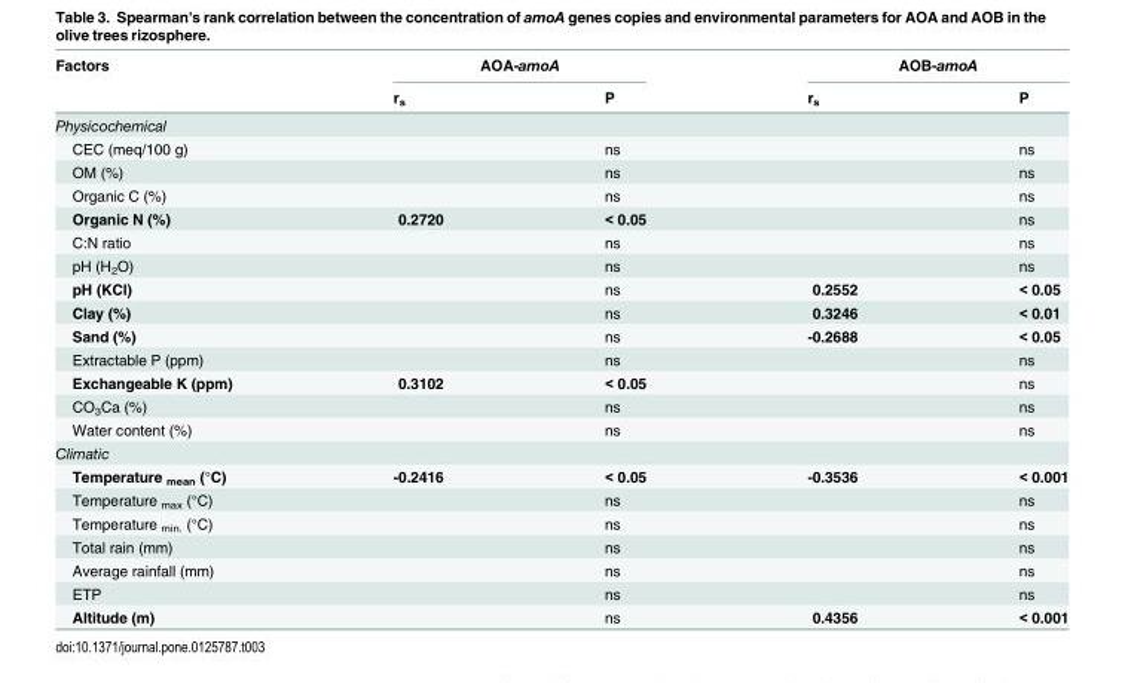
<table><thead><tr><td rowspan="2">Factors</td><td colspan="2">AOA-amoA</td><td colspan="2">AOB-amoA</td></tr><tr><td>r<sub>s</sub></td><td>P</td><td>r<sub>s</sub></td><td>P</td></tr></thead><tbody><tr><td colspan="5">Physicochemical</td></tr><tr><td>CEC (meq/100 g)</td><td></td><td>ns</td><td></td><td>ns</td></tr><tr><td>OM (%)</td><td></td><td>ns</td><td></td><td>ns</td></tr><tr><td>Organic C (%)</td><td></td><td>ns</td><td></td><td>ns</td></tr><tr><td>Organic N (%)</td><td>0.2720</td><td>&lt; 0.05</td><td></td><td>ns</td></tr><tr><td>C:N ratio</td><td></td><td>ns</td><td></td><td>ns</td></tr><tr><td>pH (H<sub>2</sub>O)</td><td></td><td>ns</td><td></td><td>ns</td></tr><tr><td>pH (KCl)</td><td></td><td>ns</td><td>0.2552</td><td>&lt; 0.05</td></tr><tr><td>Clay (%)</td><td></td><td>ns</td><td>0.3246</td><td>&lt; 0.01</td></tr><tr><td>Sand (%)</td><td></td><td>ns</td><td>-0.2688</td><td>&lt; 0.05</td></tr><tr><td>Extractable P (ppm)</td><td></td><td>ns</td><td></td><td>ns</td></tr><tr><td>Exchangeable K (ppm)</td><td>0.3102</td><td>&lt; 0.05</td><td></td><td>ns</td></tr><tr><td>CO<sub>3</sub>Ca (%)</td><td></td><td>ns</td><td></td><td>ns</td></tr><tr><td>Water content (%)</td><td></td><td>ns</td><td></td><td>ns</td></tr><tr><td colspan="5">Climatic</td></tr><tr><td>Temperature <sub>mean</sub> (°C)</td><td>-0.2416</td><td>&lt; 0.05</td><td>-0.3536</td><td>&lt; 0.001</td></tr><tr><td>Temperature <sub>max</sub> (°C)</td><td></td><td>ns</td><td></td><td>ns</td></tr><tr><td>Temperature <sub>min.</sub> (°C)</td><td></td><td>ns</td><td></td><td>ns</td></tr><tr><td>Total rain (mm)</td><td></td><td>ns</td><td></td><td>ns</td></tr><tr><td>Average rainfall (mm)</td><td></td><td>ns</td><td></td><td>ns</td></tr><tr><td>ETP</td><td></td><td>ns</td><td></td><td>ns</td></tr><tr><td>Altitude (m)</td><td></td><td>ns</td><td>0.4356</td><td>&lt; 0.001</td></tr></tbody></table>